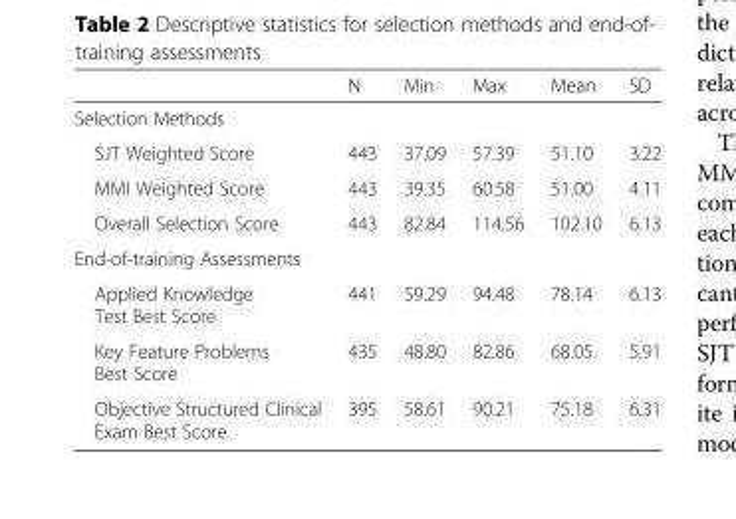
<table><thead><tr><td></td><td>N</td><td>Min</td><td>Max</td><td>Mean</td><td>SD</td></tr></thead><tbody><tr><td colspan="6">Selection Methods</td></tr><tr><td>SJT Weighted Score</td><td>443</td><td>37.09</td><td>57.39</td><td>51.10</td><td>3.22</td></tr><tr><td>MMI Weighted Score</td><td>443</td><td>39.35</td><td>60.58</td><td>51.00</td><td>4.11</td></tr><tr><td>Overall Selection Score</td><td>443</td><td>82.84</td><td>114.56</td><td>102.10</td><td>6.13</td></tr><tr><td colspan="6">End-of-training Assessments</td></tr><tr><td>Applied Knowledge Test Best Score</td><td>441</td><td>59.29</td><td>94.48</td><td>78.14</td><td>6.13</td></tr><tr><td>Key Feature Problems Best Score</td><td>435</td><td>48.80</td><td>82.86</td><td>68.05</td><td>5.91</td></tr><tr><td>Objective Structured Clinical Exam Best Score</td><td>395</td><td>58.61</td><td>90.21</td><td>75.18</td><td>6.31</td></tr></tbody></table>